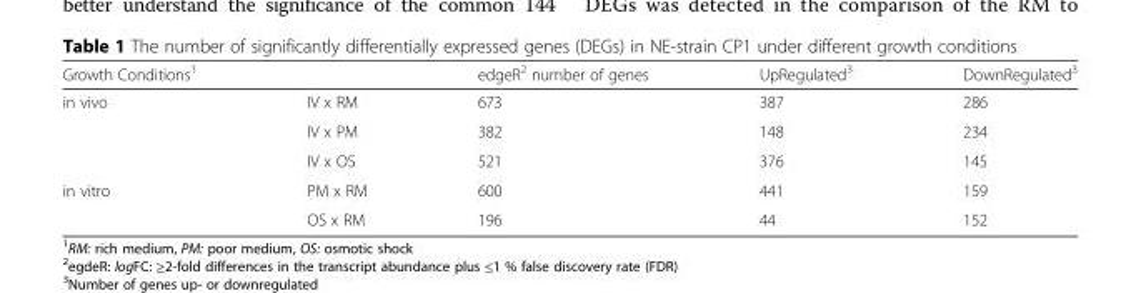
<table><thead><tr><td>Growth Conditions<sup>1</sup></td><td></td><td>edgeR<sup>2</sup> number of genes</td><td>UpRegulated<sup>3</sup></td><td>DownRegulated<sup>3</sup></td></tr></thead><tbody><tr><td rowspan="3">in vivo</td><td>IV x RM</td><td>673</td><td>387</td><td>286</td></tr><tr><td>IV x PM</td><td>382</td><td>148</td><td>234</td></tr><tr><td>IV x OS</td><td>521</td><td>376</td><td>145</td></tr><tr><td rowspan="2">in vitro</td><td>PM x RM</td><td>600</td><td>441</td><td>159</td></tr><tr><td>OS x RM</td><td>196</td><td>44</td><td>152</td></tr></tbody></table>